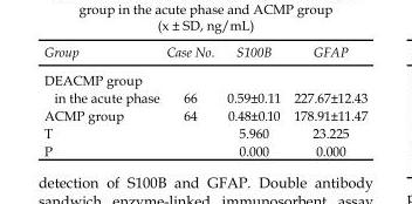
<table><thead><tr><td>Group</td><td>Case No.</td><td>S100B</td><td>GFAP</td></tr></thead><tbody><tr><td>DEACMP group in the acute phase</td><td>66</td><td>0.59±0.11</td><td>227.67±12.43</td></tr><tr><td>ACMP group</td><td>64</td><td>0.48±0.10</td><td>178.91±11.47</td></tr><tr><td>T</td><td></td><td>5.960</td><td>23.225</td></tr><tr><td>P</td><td></td><td>0.000</td><td>0.000</td></tr></tbody></table>